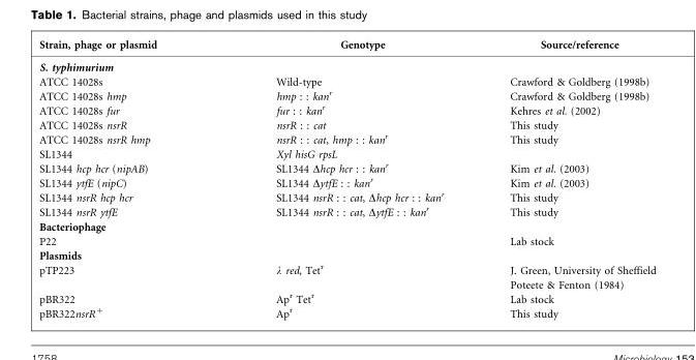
<table><thead><tr><td>Strain, phage or plasmid</td><td>Genotype</td><td>Source/reference</td></tr></thead><tbody><tr><td colspan="3">S. typhimurium</td></tr><tr><td>ATCC 14028s</td><td>Wild-type</td><td>Crawford &amp; Goldberg (1998b)</td></tr><tr><td>ATCC 14028s hmp</td><td>hmp : : kan<sup>r</sup></td><td>Crawford &amp; Goldberg (1998b)</td></tr><tr><td>ATCC 14028s fur</td><td>fur : : kan<sup>r</sup></td><td>Kehres et al. (2002)</td></tr><tr><td>ATCC 14028s nsrR</td><td>nsrR : : cat</td><td>This study</td></tr><tr><td>ATCC 14028s nsrR hmp</td><td>nsrR : : cat, hmp : : kan<sup>r</sup></td><td>This study</td></tr><tr><td>SL1344</td><td>Xyl hisG rpsL</td><td></td></tr><tr><td>SL1344 hcp hcr (nipAB)</td><td>SL1344 Δhcp hcr : : kan<sup>r</sup></td><td>Kim et al. (2003)</td></tr><tr><td>SL1344 ytfE (nipC)</td><td>SL1344 ΔytfE : : kan<sup>r</sup></td><td>Kim et al. (2003)</td></tr><tr><td>SL1344 nsrR hcp hcr</td><td>SL1344 nsrR : : cat, Δhcp hcr : : kan<sup>r</sup></td><td>This study</td></tr><tr><td>SL1344 nsrR ytfE</td><td>SL1344 nsrR : : cat, ΔytfE : : kan<sup>r</sup></td><td>This study</td></tr><tr><td colspan="3">Bacteriophage</td></tr><tr><td>P22</td><td></td><td>Lab stock</td></tr><tr><td colspan="3">Plasmids</td></tr><tr><td rowspan="2">pTP223</td><td>λ red, Tet<sup>r</sup></td><td>J. Green, University of Sheffield</td></tr><tr><td></td><td>Poteete &amp; Fenton (1984)</td></tr><tr><td>pBR322</td><td>Ap<sup>r</sup> Tet<sup>r</sup></td><td>Lab stock</td></tr><tr><td>pBR322nsrR<sup>+</sup></td><td>Ap<sup>r</sup></td><td>This study</td></tr></tbody></table>